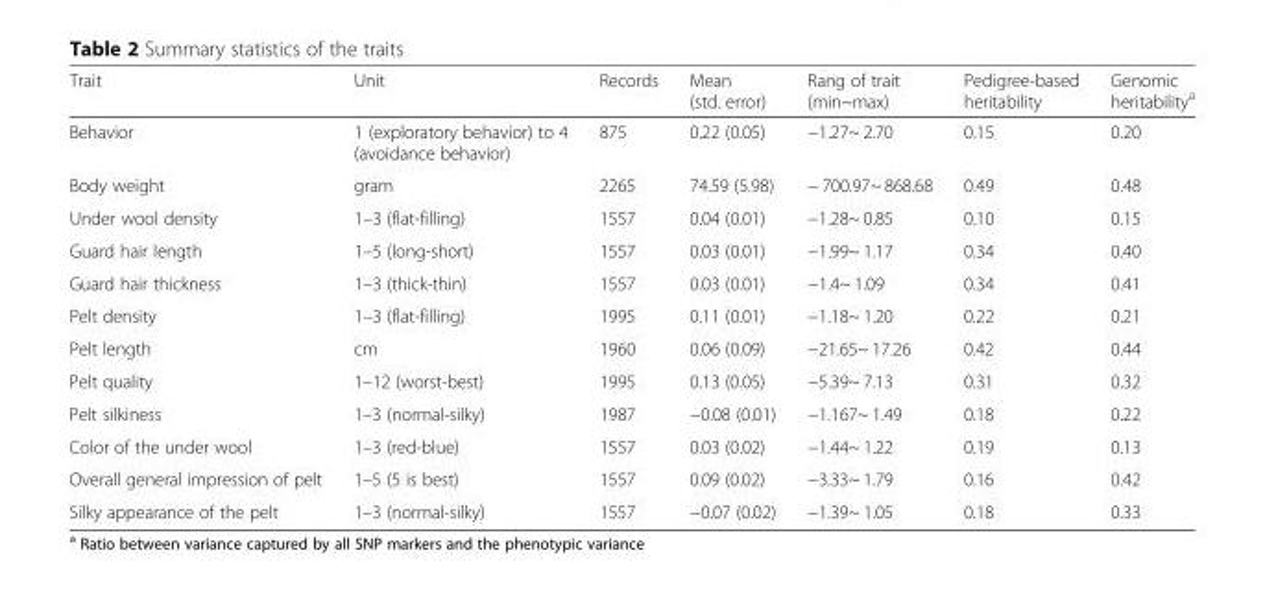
<table><thead><tr><td>Trait</td><td>Unit</td><td>Records</td><td>Mean (std. error)</td><td>Rang of trait (min~max)</td><td>Pedigree-based heritability</td><td>Genomic heritability<sup>a</sup></td></tr></thead><tbody><tr><td>Behavior</td><td>1 (exploratory behavior) to 4 (avoidance behavior)</td><td>875</td><td>0.22 (0.05)</td><td>−1.27~ 2.70</td><td>0.15</td><td>0.20</td></tr><tr><td>Body weight</td><td>gram</td><td>2265</td><td>74.59 (5.98)</td><td>− 700.97~ 868.68</td><td>0.49</td><td>0.48</td></tr><tr><td>Under wool density</td><td>1–3 (flat-filling)</td><td>1557</td><td>0.04 (0.01)</td><td>−1.28~ 0.85</td><td>0.10</td><td>0.15</td></tr><tr><td>Guard hair length</td><td>1–5 (long-short)</td><td>1557</td><td>0.03 (0.01)</td><td>−1.99~ 1.17</td><td>0.34</td><td>0.40</td></tr><tr><td>Guard hair thickness</td><td>1–3 (thick-thin)</td><td>1557</td><td>0.03 (0.01)</td><td>−1.4~ 1.09</td><td>0.34</td><td>0.41</td></tr><tr><td>Pelt density</td><td>1–3 (flat-filling)</td><td>1995</td><td>0.11 (0.01)</td><td>−1.18~ 1.20</td><td>0.22</td><td>0.21</td></tr><tr><td>Pelt length</td><td>cm</td><td>1960</td><td>0.06 (0.09)</td><td>−21.65~ 17.26</td><td>0.42</td><td>0.44</td></tr><tr><td>Pelt quality</td><td>1–12 (worst-best)</td><td>1995</td><td>0.13 (0.05)</td><td>−5.39~ 7.13</td><td>0.31</td><td>0.32</td></tr><tr><td>Pelt silkiness</td><td>1–3 (normal-silky)</td><td>1987</td><td>−0.08 (0.01)</td><td>−1.167~ 1.49</td><td>0.18</td><td>0.22</td></tr><tr><td>Color of the under wool</td><td>1–3 (red-blue)</td><td>1557</td><td>0.03 (0.02)</td><td>−1.44~ 1.22</td><td>0.19</td><td>0.13</td></tr><tr><td>Overall general impression of pelt</td><td>1–5 (5 is best)</td><td>1557</td><td>0.09 (0.02)</td><td>−3.33~ 1.79</td><td>0.16</td><td>0.42</td></tr><tr><td>Silky appearance of the pelt</td><td>1–3 (normal-silky)</td><td>1557</td><td>−0.07 (0.02)</td><td>−1.39~ 1.05</td><td>0.18</td><td>0.33</td></tr></tbody></table>